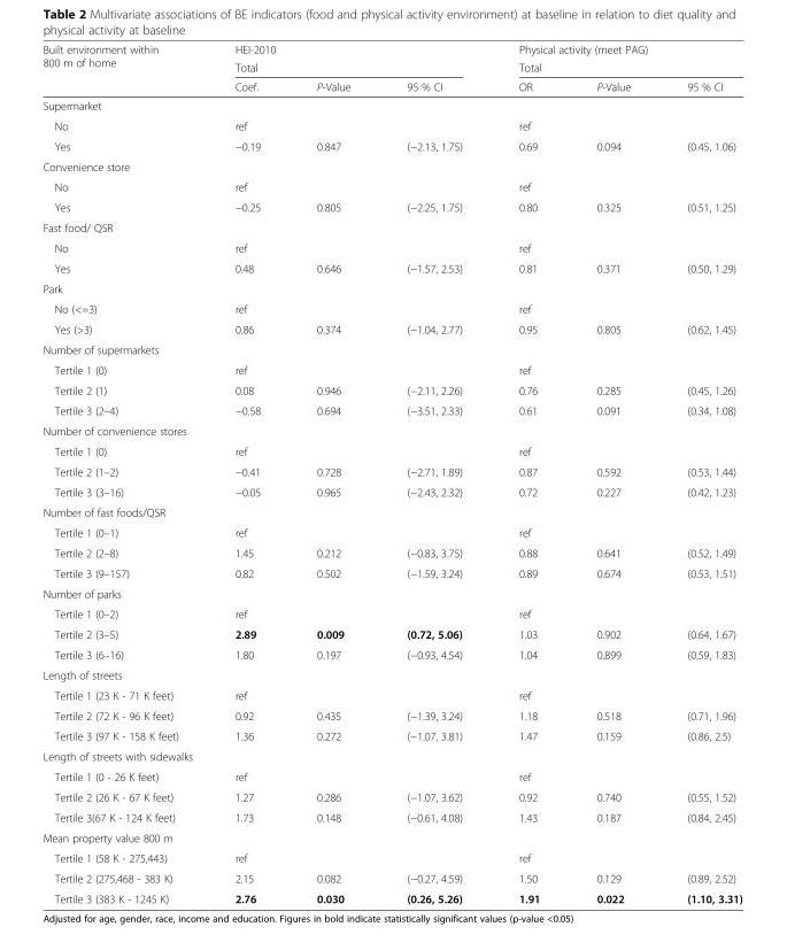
<table><thead><tr><td rowspan="3">Built environment within 800 m of home</td><td rowspan="2" colspan="3">HEI-2010 Total</td><td rowspan="2" colspan="3">Physical activity (meet PAG) Total</td></tr><tr></tr><tr><td>Coef.</td><td>P-Value</td><td>95 % CI</td><td>OR</td><td>P-Value</td><td>95 % CI</td></tr></thead><tbody><tr><td colspan="7">Supermarket</td></tr><tr><td>No</td><td>ref</td><td></td><td></td><td>ref</td><td></td><td></td></tr><tr><td>Yes</td><td>−0.19</td><td>0.847</td><td>(−2.13, 1.75)</td><td>0.69</td><td>0.094</td><td>(0.45, 1.06)</td></tr><tr><td colspan="7">Convenience store</td></tr><tr><td>No</td><td>ref</td><td></td><td></td><td>ref</td><td></td><td></td></tr><tr><td>Yes</td><td>−0.25</td><td>0.805</td><td>(−2.25, 1.75)</td><td>0.80</td><td>0.325</td><td>(0.51, 1.25)</td></tr><tr><td colspan="7">Fast food/ QSR</td></tr><tr><td>No</td><td>ref</td><td></td><td></td><td>ref</td><td></td><td></td></tr><tr><td>Yes</td><td>0.48</td><td>0.646</td><td>(−1.57, 2.53)</td><td>0.81</td><td>0.371</td><td>(0.50, 1.29)</td></tr><tr><td colspan="7">Park</td></tr><tr><td>No (&lt;=3)</td><td>ref</td><td></td><td></td><td>ref</td><td></td><td></td></tr><tr><td>Yes (&gt;3)</td><td>0.86</td><td>0.374</td><td>(−1.04, 2.77)</td><td>0.95</td><td>0.805</td><td>(0.62, 1.45)</td></tr><tr><td colspan="7">Number of supermarkets</td></tr><tr><td>Tertile 1 (0)</td><td>ref</td><td></td><td></td><td>ref</td><td></td><td></td></tr><tr><td>Tertile 2 (1)</td><td>0.08</td><td>0.946</td><td>(−2.11, 2.26)</td><td>0.76</td><td>0.285</td><td>(0.45, 1.26)</td></tr><tr><td>Tertile 3 (2–4)</td><td>−0.58</td><td>0.694</td><td>(−3.51, 2.33)</td><td>0.61</td><td>0.091</td><td>(0.34, 1.08)</td></tr><tr><td colspan="7">Number of convenience stores</td></tr><tr><td>Tertile 1 (0)</td><td>ref</td><td></td><td></td><td>ref</td><td></td><td></td></tr><tr><td>Tertile 2 (1–2)</td><td>−0.41</td><td>0.728</td><td>(−2.71, 1.89)</td><td>0.87</td><td>0.592</td><td>(0.53, 1.44)</td></tr><tr><td>Tertile 3 (3–16)</td><td>−0.05</td><td>0.965</td><td>(−2.43, 2.32)</td><td>0.72</td><td>0.227</td><td>(0.42, 1.23)</td></tr><tr><td colspan="7">Number of fast foods/QSR</td></tr><tr><td>Tertile 1 (0–1)</td><td>ref</td><td></td><td></td><td>ref</td><td></td><td></td></tr><tr><td>Tertile 2 (2–8)</td><td>1.45</td><td>0.212</td><td>(−0.83, 3.75)</td><td>0.88</td><td>0.641</td><td>(0.52, 1.49)</td></tr><tr><td>Tertile 3 (9–157)</td><td>0.82</td><td>0.502</td><td>(−1.59, 3.24)</td><td>0.89</td><td>0.674</td><td>(0.53, 1.51)</td></tr><tr><td colspan="7">Number of parks</td></tr><tr><td>Tertile 1 (0–2)</td><td>ref</td><td></td><td></td><td>ref</td><td></td><td></td></tr><tr><td>Tertile 2 (3–5)</td><td>2.89</td><td>0.009</td><td>(0.72, 5.06)</td><td>1.03</td><td>0.902</td><td>(0.64, 1.67)</td></tr><tr><td>Tertile 3 (6–16)</td><td>1.80</td><td>0.197</td><td>(−0.93, 4.54)</td><td>1.04</td><td>0.899</td><td>(0.59, 1.83)</td></tr><tr><td colspan="7">Length of streets</td></tr><tr><td>Tertile 1 (23 K - 71 K feet)</td><td>ref</td><td></td><td></td><td>ref</td><td></td><td></td></tr><tr><td>Tertile 2 (72 K - 96 K feet)</td><td>0.92</td><td>0.435</td><td>(−1.39, 3.24)</td><td>1.18</td><td>0.518</td><td>(0.71, 1.96)</td></tr><tr><td>Tertile 3 (97 K - 158 K feet)</td><td>1.36</td><td>0.272</td><td>(−1.07, 3.81)</td><td>1.47</td><td>0.159</td><td>(0.86, 2.5)</td></tr><tr><td colspan="7">Length of streets with sidewalks</td></tr><tr><td>Tertile 1 (0 - 26 K feet)</td><td>ref</td><td></td><td></td><td>ref</td><td></td><td></td></tr><tr><td>Tertile 2 (26 K - 67 K feet)</td><td>1.27</td><td>0.286</td><td>(−1.07, 3.62)</td><td>0.92</td><td>0.740</td><td>(0.55, 1.52)</td></tr><tr><td>Tertile 3(67 K - 124 K feet)</td><td>1.73</td><td>0.148</td><td>(−0.61, 4.08)</td><td>1.43</td><td>0.187</td><td>(0.84, 2.45)</td></tr><tr><td colspan="7">Mean property value 800 m</td></tr><tr><td>Tertile 1 (58 K - 275,443)</td><td>ref</td><td></td><td></td><td>ref</td><td></td><td></td></tr><tr><td>Tertile 2 (275,468 - 383 K)</td><td>2.15</td><td>0.082</td><td>(−0.27, 4.59)</td><td>1.50</td><td>0.129</td><td>(0.89, 2.52)</td></tr><tr><td>Tertile 3 (383 K - 1245 K)</td><td>2.76</td><td>0.030</td><td>(0.26, 5.26)</td><td>1.91</td><td>0.022</td><td>(1.10, 3.31)</td></tr></tbody></table>